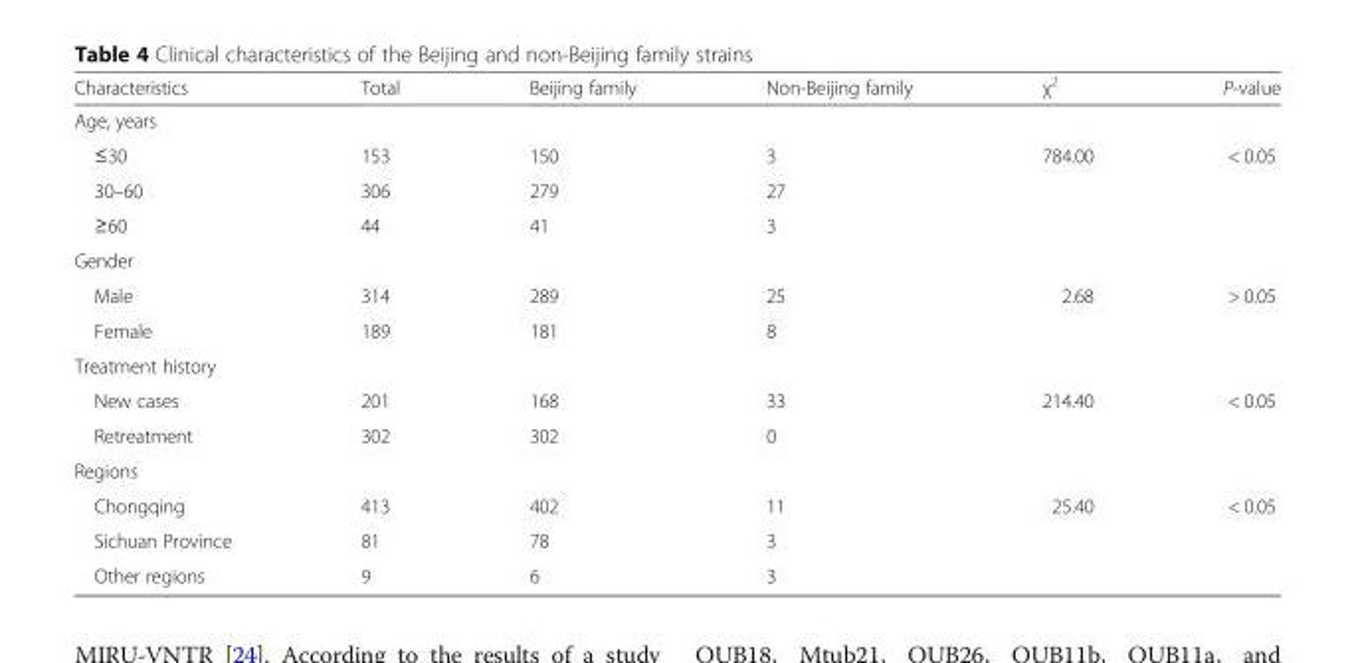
<table><thead><tr><td>Characteristics</td><td>Total</td><td>Beijing family</td><td>Non-Beijing family</td><td>χ<sup>2</sup></td><td>P-value</td></tr></thead><tbody><tr><td colspan="6">Age, years</td></tr><tr><td>≤30</td><td>153</td><td>150</td><td>3</td><td>784.00</td><td>&lt; 0.05</td></tr><tr><td>30–60</td><td>306</td><td>279</td><td>27</td><td></td><td></td></tr><tr><td>≥60</td><td>44</td><td>41</td><td>3</td><td></td><td></td></tr><tr><td colspan="6">Gender</td></tr><tr><td>Male</td><td>314</td><td>289</td><td>25</td><td>2.68</td><td>&gt; 0.05</td></tr><tr><td>Female</td><td>189</td><td>181</td><td>8</td><td></td><td></td></tr><tr><td colspan="6">Treatment history</td></tr><tr><td>New cases</td><td>201</td><td>168</td><td>33</td><td>214.40</td><td>&lt; 0.05</td></tr><tr><td>Retreatment</td><td>302</td><td>302</td><td>0</td><td></td><td></td></tr><tr><td colspan="6">Regions</td></tr><tr><td>Chongqing</td><td>413</td><td>402</td><td>11</td><td>25.40</td><td>&lt; 0.05</td></tr><tr><td>Sichuan Province</td><td>81</td><td>78</td><td>3</td><td></td><td></td></tr><tr><td>Other regions</td><td>9</td><td>6</td><td>3</td><td></td><td></td></tr></tbody></table>